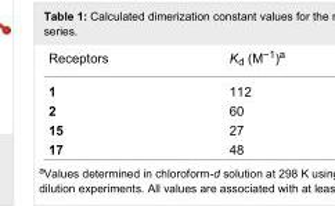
<table><tbody><tr><td>Receptors</td><td>K<sub>d</sub> (M<sup>−1</sup>)<sup>a</sup></td></tr><tr><td>1</td><td>112</td></tr><tr><td>2</td><td>60</td></tr><tr><td>15</td><td>27</td></tr><tr><td>17</td><td>48</td></tr></tbody></table>